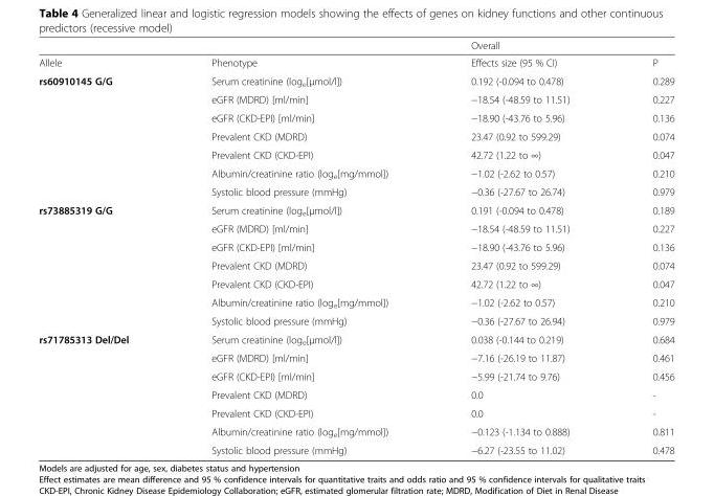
<table><thead><tr><td rowspan="2">Allele</td><td rowspan="2">Phenotype</td><td colspan="2">Overall</td></tr><tr><td>Effects size (95 % CI)</td><td>P</td></tr></thead><tbody><tr><td rowspan="7">rs60910145 G/G</td><td>Serum creatinine (log<sub>e</sub>[μmol/l])</td><td>0.192 (-0.094 to 0.478)</td><td>0.289</td></tr><tr><td>eGFR (MDRD) [ml/min]</td><td>−18.54 (-48.59 to 11.51)</td><td>0.227</td></tr><tr><td>eGFR (CKD-EPI) [ml/min]</td><td>−18.90 (-43.76 to 5.96)</td><td>0.136</td></tr><tr><td>Prevalent CKD (MDRD)</td><td>23.47 (0.92 to 599.29)</td><td>0.074</td></tr><tr><td>Prevalent CKD (CKD-EPI)</td><td>42.72 (1.22 to ∞)</td><td>0.047</td></tr><tr><td>Albumin/creatinine ratio (log<sub>e</sub>[mg/mmol])</td><td>−1.02 (-2.62 to 0.57)</td><td>0.210</td></tr><tr><td>Systolic blood pressure (mmHg)</td><td>−0.36 (-27.67 to 26.74)</td><td>0.979</td></tr><tr><td rowspan="7">rs73885319 G/G</td><td>Serum creatinine (log<sub>e</sub>[μmol/l])</td><td>0.191 (-0.094 to 0.478)</td><td>0.189</td></tr><tr><td>eGFR (MDRD) [ml/min]</td><td>−18.54 (-48.59 to 11.51)</td><td>0.227</td></tr><tr><td>eGFR (CKD-EPI) [ml/min]</td><td>−18.90 (-43.76 to 5.96)</td><td>0.136</td></tr><tr><td>Prevalent CKD (MDRD)</td><td>23.47 (0.92 to 599.29)</td><td>0.074</td></tr><tr><td>Prevalent CKD (CKD-EPI)</td><td>42.72 (1.22 to ∞)</td><td>0.047</td></tr><tr><td>Albumin/creatinine ratio (log<sub>e</sub>[mg/mmol])</td><td>−1.02 (-2.62 to 0.57)</td><td>0.210</td></tr><tr><td>Systolic blood pressure (mmHg)</td><td>−0.36 (-27.67 to 26.94)</td><td>0.979</td></tr><tr><td rowspan="7">rs71785313 Del/Del</td><td>Serum creatinine (log<sub>e</sub>[μmol/l])</td><td>0.038 (-0.144 to 0.219)</td><td>0.684</td></tr><tr><td>eGFR (MDRD) [ml/min]</td><td>−7.16 (-26.19 to 11.87)</td><td>0.461</td></tr><tr><td>eGFR (CKD-EPI) [ml/min]</td><td>−5.99 (-21.74 to 9.76)</td><td>0.456</td></tr><tr><td>Prevalent CKD (MDRD)</td><td>0.0</td><td>-</td></tr><tr><td>Prevalent CKD (CKD-EPI)</td><td>0.0</td><td>-</td></tr><tr><td>Albumin/creatinine ratio (log<sub>e</sub>[mg/mmol])</td><td>−0.123 (-1.134 to 0.888)</td><td>0.811</td></tr><tr><td>Systolic blood pressure (mmHg)</td><td>−6.27 (-23.55 to 11.02)</td><td>0.478</td></tr></tbody></table>